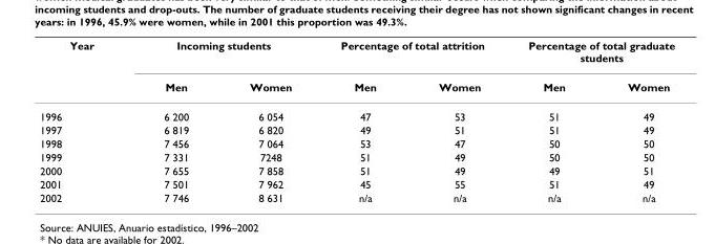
<table><thead><tr><td rowspan="2">Year</td><td colspan="2">Incoming students</td><td colspan="2">Percentage of total attrition</td><td colspan="2">Percentage of total graduate students</td></tr><tr><td>Men</td><td>Women</td><td>Men</td><td>Women</td><td>Men</td><td>Women</td></tr></thead><tbody><tr><td>1996</td><td>6 200</td><td>6 054</td><td>47</td><td>53</td><td>51</td><td>49</td></tr><tr><td>1997</td><td>6 819</td><td>6 820</td><td>49</td><td>51</td><td>51</td><td>49</td></tr><tr><td>1998</td><td>7 456</td><td>7 064</td><td>53</td><td>47</td><td>50</td><td>50</td></tr><tr><td>1999</td><td>7 331</td><td>7248</td><td>51</td><td>49</td><td>50</td><td>50</td></tr><tr><td>2000</td><td>7 655</td><td>7 858</td><td>51</td><td>49</td><td>49</td><td>51</td></tr><tr><td>2001</td><td>7 501</td><td>7 962</td><td>45</td><td>55</td><td>51</td><td>49</td></tr><tr><td>2002</td><td>7 746</td><td>8 631</td><td>n/a</td><td>n/a</td><td>n/a</td><td>n/a</td></tr></tbody></table>